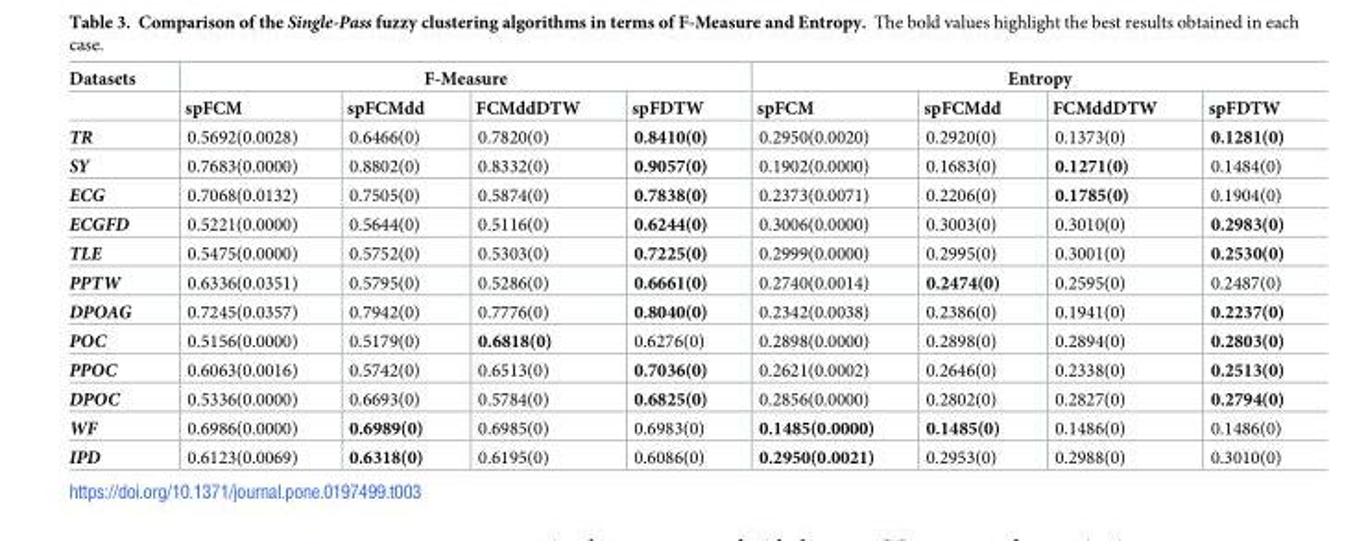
<table><thead><tr><td rowspan="2">Datasets</td><td colspan="4">F-Measure</td><td colspan="4">Entropy</td></tr><tr><td>spFCM</td><td>spFCMdd</td><td>FCMddDTW</td><td>spFDTW</td><td>spFCM</td><td>spFCMdd</td><td>FCMddDTW</td><td>spFDTW</td></tr></thead><tbody><tr><td>TR</td><td>0.5692(0.0028)</td><td>0.6466(0)</td><td>0.7820(0)</td><td>0.8410(0)</td><td>0.2950(0.0020)</td><td>0.2920(0)</td><td>0.1373(0)</td><td>0.1281(0)</td></tr><tr><td>SY</td><td>0.7683(0.0000)</td><td>0.8802(0)</td><td>0.8332(0)</td><td>0.9057(0)</td><td>0.1902(0.0000)</td><td>0.1683(0)</td><td>0.1271(0)</td><td>0.1484(0)</td></tr><tr><td>ECG</td><td>0.7068(0.0132)</td><td>0.7505(0)</td><td>0.5874(0)</td><td>0.7838(0)</td><td>0.2373(0.0071)</td><td>0.2206(0)</td><td>0.1785(0)</td><td>0.1904(0)</td></tr><tr><td>ECGFD</td><td>0.5221(0.0000)</td><td>0.5644(0)</td><td>0.5116(0)</td><td>0.6244(0)</td><td>0.3006(0.0000)</td><td>0.3003(0)</td><td>0.3010(0)</td><td>0.2983(0)</td></tr><tr><td>TLE</td><td>0.5475(0.0000)</td><td>0.5752(0)</td><td>0.5303(0)</td><td>0.7225(0)</td><td>0.2999(0.0000)</td><td>0.2995(0)</td><td>0.3001(0)</td><td>0.2530(0)</td></tr><tr><td>PPTW</td><td>0.6336(0.0351)</td><td>0.5795(0)</td><td>0.5286(0)</td><td>0.6661(0)</td><td>0.2740(0.0014)</td><td>0.2474(0)</td><td>0.2595(0)</td><td>0.2487(0)</td></tr><tr><td>DPOAG</td><td>0.7245(0.0357)</td><td>0.7942(0)</td><td>0.7776(0)</td><td>0.8040(0)</td><td>0.2342(0.0038)</td><td>0.2386(0)</td><td>0.1941(0)</td><td>0.2237(0)</td></tr><tr><td>POC</td><td>0.5156(0.0000)</td><td>0.5179(0)</td><td>0.6818(0)</td><td>0.6276(0)</td><td>0.2898(0.0000)</td><td>0.2898(0)</td><td>0.2894(0)</td><td>0.2803(0)</td></tr><tr><td>PPOC</td><td>0.6063(0.0016)</td><td>0.5742(0)</td><td>0.6513(0)</td><td>0.7036(0)</td><td>0.2621(0.0002)</td><td>0.2646(0)</td><td>0.2338(0)</td><td>0.2513(0)</td></tr><tr><td>DPOC</td><td>0.5336(0.0000)</td><td>0.6693(0)</td><td>0.5784(0)</td><td>0.6825(0)</td><td>0.2856(0.0000)</td><td>0.2802(0)</td><td>0.2827(0)</td><td>0.2794(0)</td></tr><tr><td>WF</td><td>0.6986(0.0000)</td><td>0.6989(0)</td><td>0.6985(0)</td><td>0.6983(0)</td><td>0.1485(0.0000)</td><td>0.1485(0)</td><td>0.1486(0)</td><td>0.1486(0)</td></tr><tr><td>IPD</td><td>0.6123(0.0069)</td><td>0.6318(0)</td><td>0.6195(0)</td><td>0.6086(0)</td><td>0.2950(0.0021)</td><td>0.2953(0)</td><td>0.2988(0)</td><td>0.3010(0)</td></tr></tbody></table>